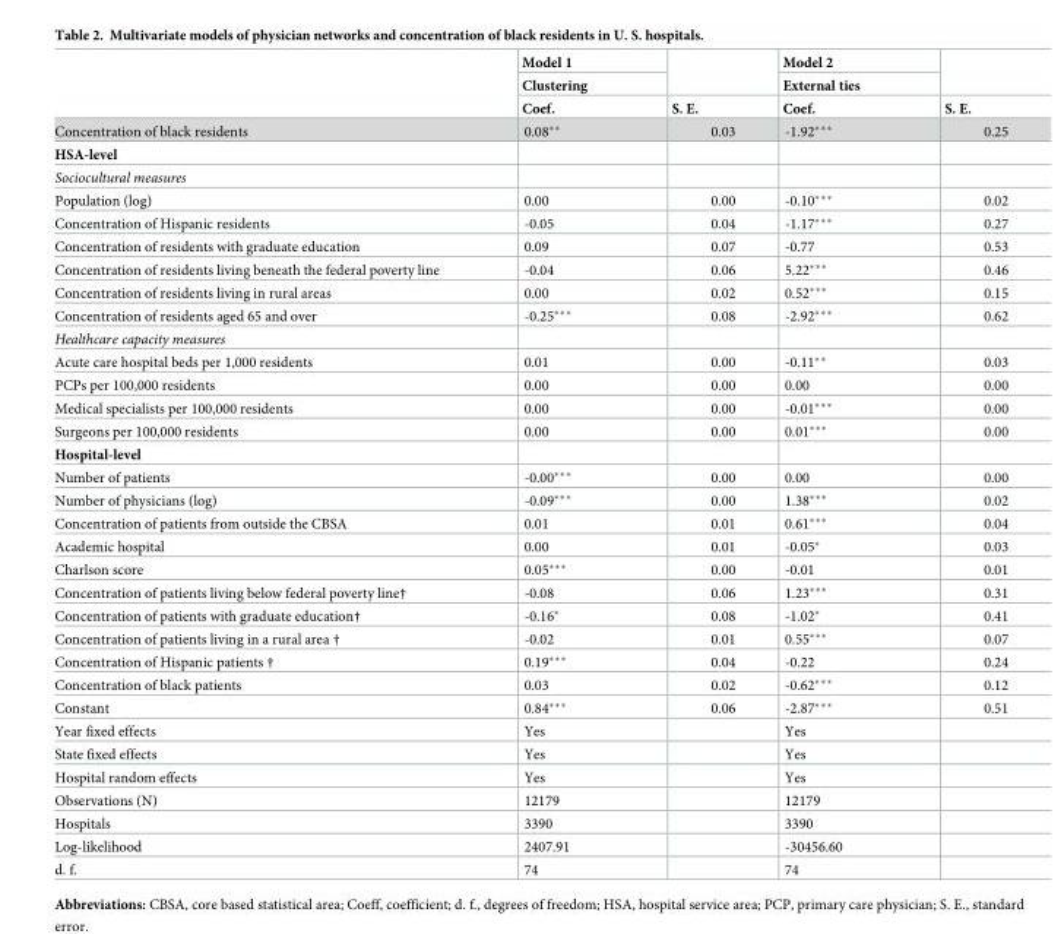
<table><thead><tr><td rowspan="3"></td><td rowspan="3">Model 1 Clustering Coef.</td><td rowspan="3">S. E.</td><td rowspan="3">Model 2 External ties Coef.</td><td rowspan="3">S. E.</td></tr><tr></tr><tr></tr></thead><tbody><tr><td>Concentration of black residents</td><td>0.08**</td><td>0.03</td><td>-1.92***</td><td>0.25</td></tr><tr><td colspan="5">HSA-level</td></tr><tr><td colspan="5">Sociocultural measures</td></tr><tr><td>Population (log)</td><td>0.00</td><td>0.00</td><td>-0.10***</td><td>0.02</td></tr><tr><td>Concentration of Hispanic residents</td><td>-0.05</td><td>0.04</td><td>-1.17***</td><td>0.27</td></tr><tr><td>Concentration of residents with graduate education</td><td>0.09</td><td>0.07</td><td>-0.77</td><td>0.53</td></tr><tr><td>Concentration of residents living beneath the federal poverty line</td><td>-0.04</td><td>0.06</td><td>5.22***</td><td>0.46</td></tr><tr><td>Concentration of residents living in rural areas</td><td>0.00</td><td>0.02</td><td>0.52***</td><td>0.15</td></tr><tr><td>Concentration of residents aged 65 and over</td><td>-0.25***</td><td>0.08</td><td>-2.92***</td><td>0.62</td></tr><tr><td colspan="5">Healthcare capacity measures</td></tr><tr><td>Acute care hospital beds per 1,000 residents</td><td>0.01</td><td>0.00</td><td>-0.11**</td><td>0.03</td></tr><tr><td>PCPs per 100,000 residents</td><td>0.00</td><td>0.00</td><td>0.00</td><td>0.00</td></tr><tr><td>Medical specialists per 100,000 residents</td><td>0.00</td><td>0.00</td><td>-0.01***</td><td>0.00</td></tr><tr><td>Surgeons per 100,000 residents</td><td>0.00</td><td>0.00</td><td>0.01***</td><td>0.00</td></tr><tr><td colspan="5">Hospital-level</td></tr><tr><td>Number of patients</td><td>-0.00***</td><td>0.00</td><td>0.00</td><td>0.00</td></tr><tr><td>Number of physicians (log)</td><td>-0.09***</td><td>0.00</td><td>1.38***</td><td>0.02</td></tr><tr><td>Concentration of patients from outside the CBSA</td><td>0.01</td><td>0.01</td><td>0.61***</td><td>0.04</td></tr><tr><td>Academic hospital</td><td>0.00</td><td>0.01</td><td>-0.05*</td><td>0.03</td></tr><tr><td>Charlson score</td><td>0.05***</td><td>0.00</td><td>-0.01</td><td>0.01</td></tr><tr><td>Concentration of patients living below federal poverty line†</td><td>-0.08</td><td>0.06</td><td>1.23***</td><td>0.31</td></tr><tr><td>Concentration of patients with graduate education†</td><td>-0.16*</td><td>0.08</td><td>-1.02*</td><td>0.41</td></tr><tr><td>Concentration of patients living in a rural area †</td><td>-0.02</td><td>0.01</td><td>0.55***</td><td>0.07</td></tr><tr><td>Concentration of Hispanic patients †</td><td>0.19***</td><td>0.04</td><td>-0.22</td><td>0.24</td></tr><tr><td>Concentration of black patients</td><td>0.03</td><td>0.02</td><td>-0.62***</td><td>0.12</td></tr><tr><td>Constant</td><td>0.84***</td><td>0.06</td><td>-2.87***</td><td>0.51</td></tr><tr><td>Year fixed effects</td><td>Yes</td><td></td><td>Yes</td><td></td></tr><tr><td>State fixed effects</td><td>Yes</td><td></td><td>Yes</td><td></td></tr><tr><td>Hospital random effects</td><td>Yes</td><td></td><td>Yes</td><td></td></tr><tr><td>Observations (N)</td><td>12179</td><td></td><td>12179</td><td></td></tr><tr><td>Hospitals</td><td>3390</td><td></td><td>3390</td><td></td></tr><tr><td>Log-likelihood</td><td>2407.91</td><td></td><td>-30456.60</td><td></td></tr><tr><td>d. f.</td><td>74</td><td></td><td>74</td><td></td></tr></tbody></table>